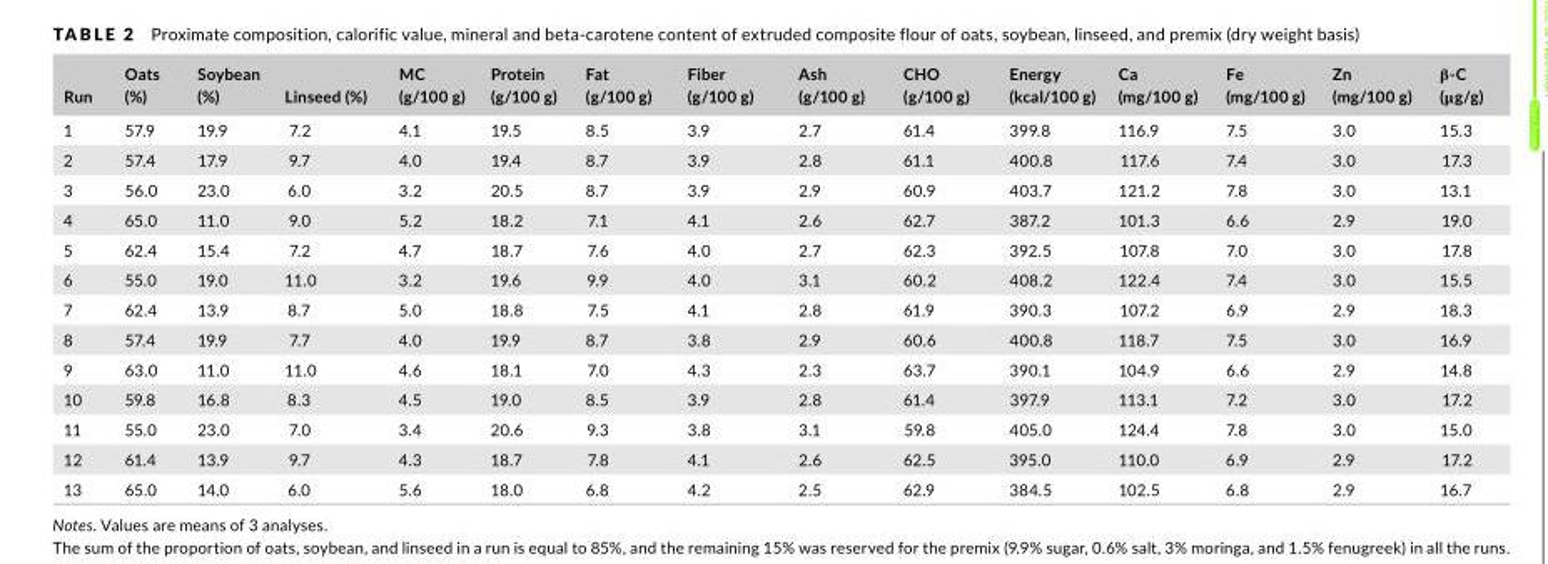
<table><thead><tr><td>Run</td><td>Oats (%)</td><td>Soybean (%)</td><td>Linseed (%)</td><td>MC (g/100 g)</td><td>Protein (g/100 g)</td><td>Fat (g/100 g)</td><td>Fiber (g/100 g)</td><td>Ash (g/100 g)</td><td>CHO (g/100 g)</td><td>Energy (kcal/100 g)</td><td>Ca (mg/100 g)</td><td>Fe (mg/100 g)</td><td>Zn (mg/100 g)</td><td>β- C (μg/g)</td></tr></thead><tbody><tr><td>1</td><td>57.9</td><td>19.9</td><td>7.2</td><td>4.1</td><td>19.5</td><td>8.5</td><td>3.9</td><td>2.7</td><td>61.4</td><td>399.8</td><td>116.9</td><td>7.5</td><td>3.0</td><td>15.3</td></tr><tr><td>2</td><td>57.4</td><td>17.9</td><td>9.7</td><td>4.0</td><td>19.4</td><td>8.7</td><td>3.9</td><td>2.8</td><td>61.1</td><td>400.8</td><td>117.6</td><td>7.4</td><td>3.0</td><td>17.3</td></tr><tr><td>3</td><td>56.0</td><td>23.0</td><td>6.0</td><td>3.2</td><td>20.5</td><td>8.7</td><td>3.9</td><td>2.9</td><td>60.9</td><td>403.7</td><td>121.2</td><td>7.8</td><td>3.0</td><td>13.1</td></tr><tr><td>4</td><td>65.0</td><td>11.0</td><td>9.0</td><td>5.2</td><td>18.2</td><td>7.1</td><td>4.1</td><td>2.6</td><td>62.7</td><td>387.2</td><td>101.3</td><td>6.6</td><td>2.9</td><td>19.0</td></tr><tr><td>5</td><td>62.4</td><td>15.4</td><td>7.2</td><td>4.7</td><td>18.7</td><td>7.6</td><td>4.0</td><td>2.7</td><td>62.3</td><td>392.5</td><td>107.8</td><td>7.0</td><td>3.0</td><td>17.8</td></tr><tr><td>6</td><td>55.0</td><td>19.0</td><td>11.0</td><td>3.2</td><td>19.6</td><td>9.9</td><td>4.0</td><td>3.1</td><td>60.2</td><td>408.2</td><td>122.4</td><td>7.4</td><td>3.0</td><td>15.5</td></tr><tr><td>7</td><td>62.4</td><td>13.9</td><td>8.7</td><td>5.0</td><td>18.8</td><td>7.5</td><td>4.1</td><td>2.8</td><td>61.9</td><td>390.3</td><td>107.2</td><td>6.9</td><td>2.9</td><td>18.3</td></tr><tr><td>8</td><td>57.4</td><td>19.9</td><td>7.7</td><td>4.0</td><td>19.9</td><td>8.7</td><td>3.8</td><td>2.9</td><td>60.6</td><td>400.8</td><td>118.7</td><td>7.5</td><td>3.0</td><td>16.9</td></tr><tr><td>9</td><td>63.0</td><td>11.0</td><td>11.0</td><td>4.6</td><td>18.1</td><td>7.0</td><td>4.3</td><td>2.3</td><td>63.7</td><td>390.1</td><td>104.9</td><td>6.6</td><td>2.9</td><td>14.8</td></tr><tr><td>10</td><td>59.8</td><td>16.8</td><td>8.3</td><td>4.5</td><td>19.0</td><td>8.5</td><td>3.9</td><td>2.8</td><td>61.4</td><td>397.9</td><td>113.1</td><td>7.2</td><td>3.0</td><td>17.2</td></tr><tr><td>11</td><td>55.0</td><td>23.0</td><td>7.0</td><td>3.4</td><td>20.6</td><td>9.3</td><td>3.8</td><td>3.1</td><td>59.8</td><td>405.0</td><td>124.4</td><td>7.8</td><td>3.0</td><td>15.0</td></tr><tr><td>12</td><td>61.4</td><td>13.9</td><td>9.7</td><td>4.3</td><td>18.7</td><td>7.8</td><td>4.1</td><td>2.6</td><td>62.5</td><td>395.0</td><td>110.0</td><td>6.9</td><td>2.9</td><td>17.2</td></tr><tr><td>13</td><td>65.0</td><td>14.0</td><td>6.0</td><td>5.6</td><td>18.0</td><td>6.8</td><td>4.2</td><td>2.5</td><td>62.9</td><td>384.5</td><td>102.5</td><td>6.8</td><td>2.9</td><td>16.7</td></tr></tbody></table>